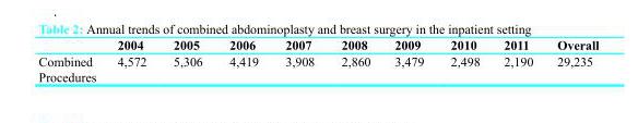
<table><thead><tr><td></td><td>2004</td><td>2005</td><td>2006</td><td>2007</td><td>2008</td><td>2009</td><td>2010</td><td>2011</td><td>Overall</td></tr></thead><tbody><tr><td>Combined Procedures</td><td>4,572</td><td>5,306</td><td>4,419</td><td>3,908</td><td>2,860</td><td>3,479</td><td>2,498</td><td>2,190</td><td>29,235</td></tr></tbody></table>